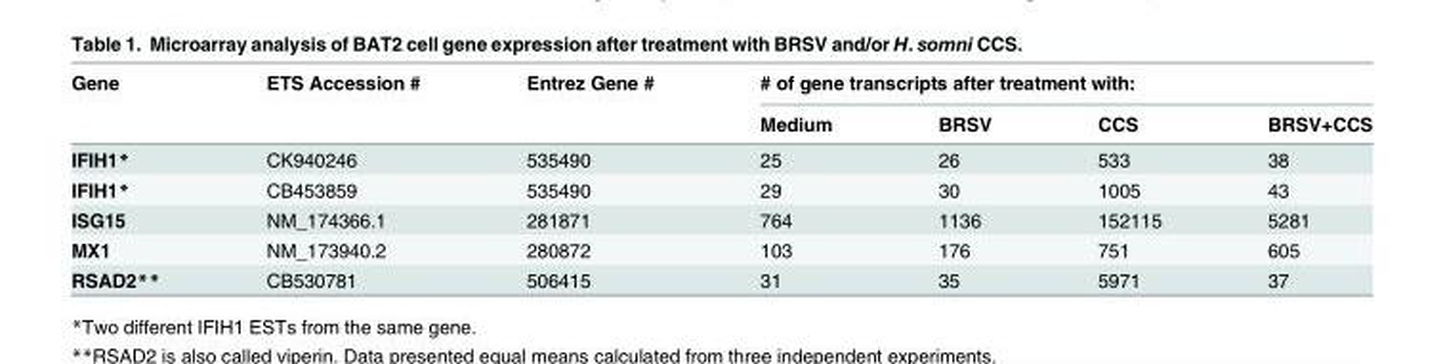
<table><thead><tr><td rowspan="2">Gene</td><td rowspan="2">ETS Accession #</td><td rowspan="2">Entrez Gene #</td><td colspan="4"># of gene transcripts after treatment with:</td></tr><tr><td>Medium</td><td>BRSV</td><td>CCS</td><td>BRSV+CCS</td></tr></thead><tbody><tr><td>IFIH1*</td><td>CK940246</td><td>535490</td><td>25</td><td>26</td><td>533</td><td>38</td></tr><tr><td>IFIH1*</td><td>CB453859</td><td>535490</td><td>29</td><td>30</td><td>1005</td><td>43</td></tr><tr><td>ISG15</td><td>NM_174366.1</td><td>281871</td><td>764</td><td>1136</td><td>152115</td><td>5281</td></tr><tr><td>MX1</td><td>NM_173940.2</td><td>280872</td><td>103</td><td>176</td><td>751</td><td>605</td></tr><tr><td>RSAD2**</td><td>CB530781</td><td>506415</td><td>31</td><td>35</td><td>5971</td><td>37</td></tr></tbody></table>